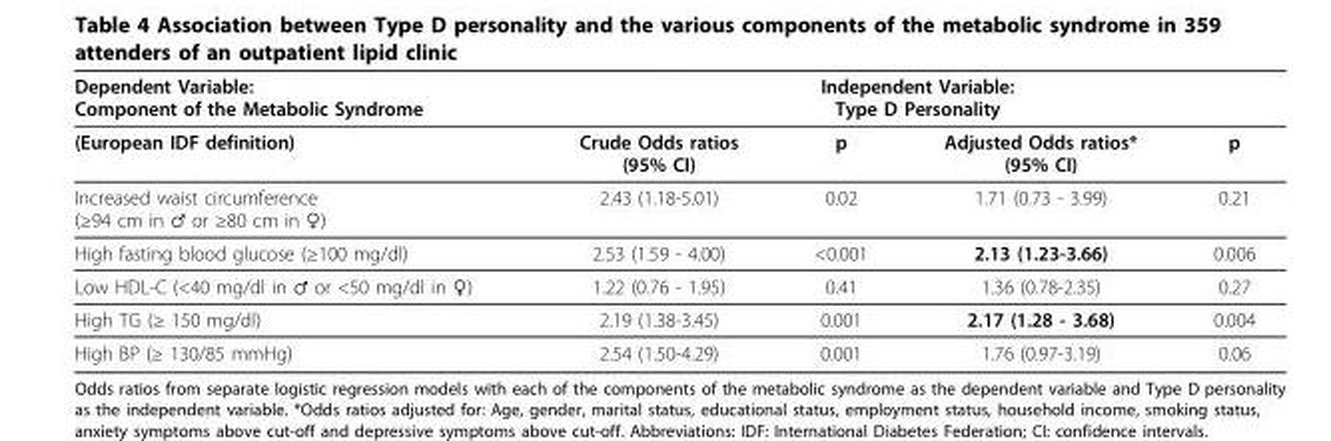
<table><thead><tr><td rowspan="2">Dependent Variable: Component of the Metabolic Syndrome (European IDF definition)</td><td colspan="4">Independent Variable: Type D Personality</td></tr><tr><td>Crude Odds ratios (95% CI)</td><td>p</td><td>Adjusted Odds ratios* (95% CI)</td><td>p</td></tr></thead><tbody><tr><td>Increased waist circumference (≥94 cm in ♂ or ≥80 cm in ♀)</td><td>2.43 (1.18-5.01)</td><td>0.02</td><td>1.71 (0.73 - 3.99)</td><td>0.21</td></tr><tr><td>High fasting blood glucose (≥100 mg/dl)</td><td>2.53 (1.59 - 4.00)</td><td>&lt;0.001</td><td>2.13 (1.23-3.66)</td><td>0.006</td></tr><tr><td>Low HDL-C (&lt;40 mg/dl in ♂ or &lt;50 mg/dl in ♀)</td><td>1.22 (0.76 - 1.95)</td><td>0.41</td><td>1.36 (0.78-2.35)</td><td>0.27</td></tr><tr><td>High TG (≥ 150 mg/dl)</td><td>2.19 (1.38-3.45)</td><td>0.001</td><td>2.17 (1.28 - 3.68)</td><td>0.004</td></tr><tr><td>High BP (≥ 130/85 mmHg)</td><td>2.54 (1.50-4.29)</td><td>0.001</td><td>1.76 (0.97-3.19)</td><td>0.06</td></tr></tbody></table>